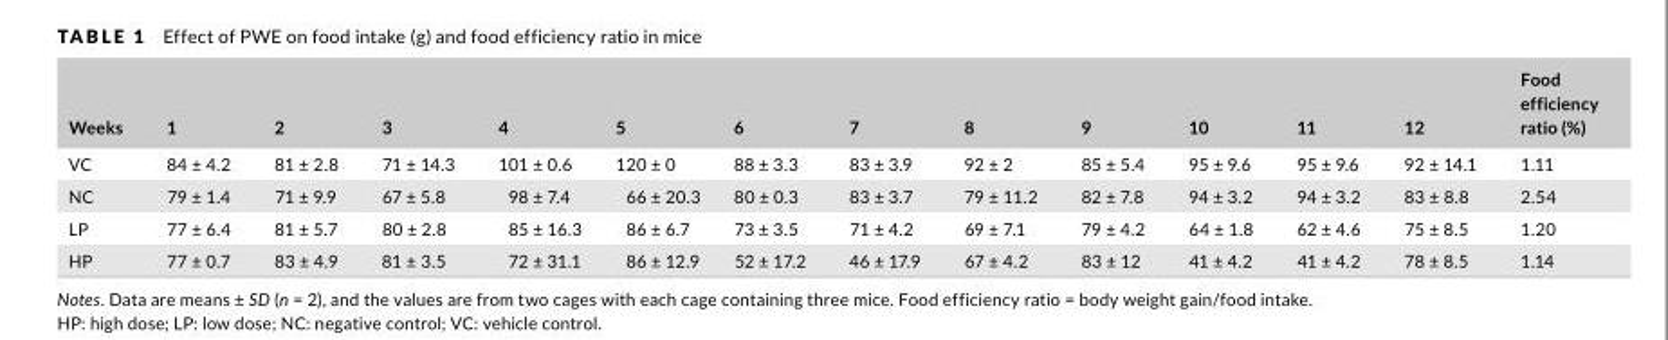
<table><thead><tr><td>Weeks</td><td>1</td><td>2</td><td>3</td><td>4</td><td>5</td><td>6</td><td>7</td><td>8</td><td>9</td><td>10</td><td>11</td><td>12</td><td>Food efficiency ratio (%)</td></tr></thead><tbody><tr><td>VC</td><td>84 ± 4.2</td><td>81 ± 2.8</td><td>71 ± 14.3</td><td>101 ± 0.6</td><td>120 ± 0</td><td>88 ± 3.3</td><td>83 ± 3.9</td><td>92 ± 2</td><td>85 ± 5.4</td><td>95 ± 9.6</td><td>95 ± 9.6</td><td>92 ± 14.1</td><td>1.11</td></tr><tr><td>NC</td><td>79 ± 1.4</td><td>71 ± 9.9</td><td>67 ± 5.8</td><td>98 ± 7.4</td><td>66 ± 20.3</td><td>80 ± 0.3</td><td>83 ± 3.7</td><td>79 ± 11.2</td><td>82 ± 7.8</td><td>94 ± 3.2</td><td>94 ± 3.2</td><td>83 ± 8.8</td><td>2.54</td></tr><tr><td>LP</td><td>77 ± 6.4</td><td>81 ± 5.7</td><td>80 ± 2.8</td><td>85 ± 16.3</td><td>86 ± 6.7</td><td>73 ± 3.5</td><td>71 ± 4.2</td><td>69 ± 7.1</td><td>79 ± 4.2</td><td>64 ± 1.8</td><td>62 ± 4.6</td><td>75 ± 8.5</td><td>1.20</td></tr><tr><td>HP</td><td>77 ± 0.7</td><td>83 ± 4.9</td><td>81 ± 3.5</td><td>72 ± 31.1</td><td>86 ± 12.9</td><td>52 ± 17.2</td><td>46 ± 17.9</td><td>67 ± 4.2</td><td>83 ± 12</td><td>41 ± 4.2</td><td>41 ± 4.2</td><td>78 ± 8.5</td><td>1.14</td></tr></tbody></table>